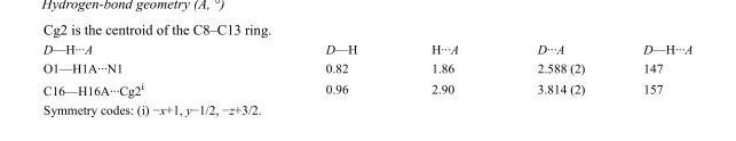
<table><tbody><tr><td>D—H···A</td><td>D—H</td><td>H···A</td><td>D···A</td><td>D—H···A</td></tr><tr><td>O1—H1A···N1</td><td>0.82</td><td>1.86</td><td>2.588 (2)</td><td>147</td></tr><tr><td>C16—H16A···Cg2<sup>i</sup></td><td>0.96</td><td>2.90</td><td>3.814 (2)</td><td>157</td></tr></tbody></table>